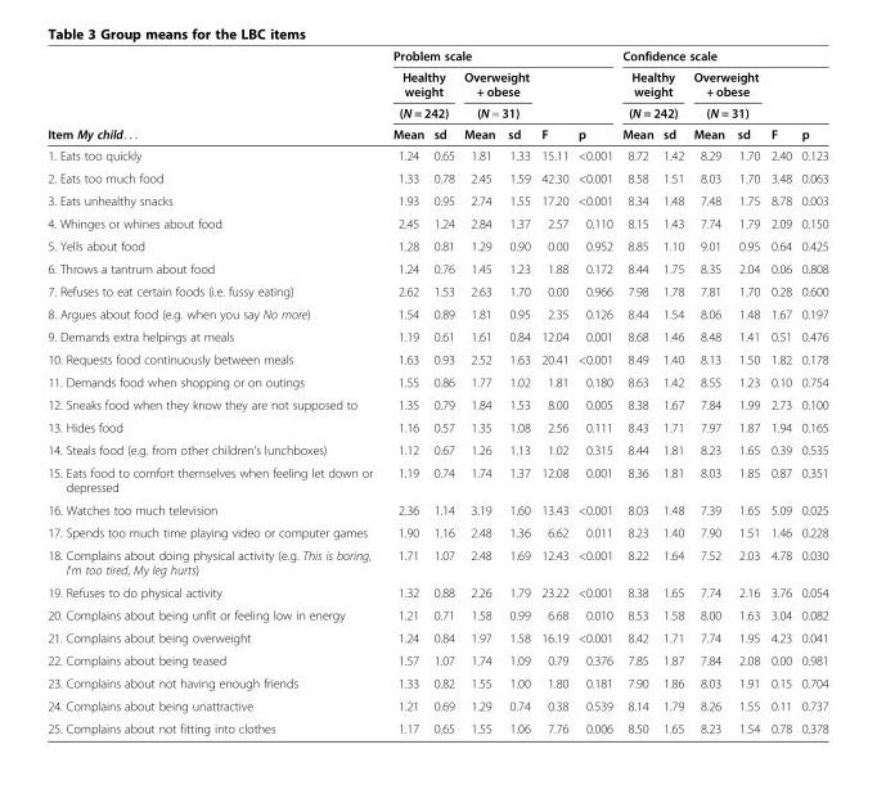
<table><thead><tr><td rowspan="4">Item My child. . .</td><td colspan="6">Problem scale</td><td colspan="6">Confidence scale</td></tr><tr><td rowspan="2" colspan="2">Healthy weight (N = 242)</td><td rowspan="2" colspan="2">Overweight + obese (N = 31)</td><td rowspan="3">F</td><td rowspan="3">p</td><td rowspan="2" colspan="2">Healthy weight (N = 242)</td><td rowspan="2" colspan="2">Overweight + obese (N = 31)</td><td rowspan="3">F</td><td rowspan="3">p</td></tr><tr></tr><tr><td>Mean</td><td>sd</td><td>Mean</td><td>sd</td><td>Mean</td><td>sd</td><td>Mean</td><td>sd</td></tr></thead><tbody><tr><td>1. Eats too quickly</td><td>1.24</td><td>0.65</td><td>1.81</td><td>1.33</td><td>15.11</td><td>&lt;0.001</td><td>8.72</td><td>1.42</td><td>8.29</td><td>1.70</td><td>2.40</td><td>0.123</td></tr><tr><td>2. Eats too much food</td><td>1.33</td><td>0.78</td><td>2.45</td><td>1.59</td><td>42.30</td><td>&lt;0.001</td><td>8.58</td><td>1.51</td><td>8.03</td><td>1.70</td><td>3.48</td><td>0.063</td></tr><tr><td>3. Eats unhealthy snacks</td><td>1.93</td><td>0.95</td><td>2.74</td><td>1.55</td><td>17.20</td><td>&lt;0.001</td><td>8.34</td><td>1.48</td><td>7.48</td><td>1.75</td><td>8.78</td><td>0.003</td></tr><tr><td>4. Whinges or whines about food</td><td>2.45</td><td>1.24</td><td>2.84</td><td>1.37</td><td>2.57</td><td>0.110</td><td>8.15</td><td>1.43</td><td>7.74</td><td>1.79</td><td>2.09</td><td>0.150</td></tr><tr><td>5. Yells about food</td><td>1.28</td><td>0.81</td><td>1.29</td><td>0.90</td><td>0.00</td><td>0.952</td><td>8.85</td><td>1.10</td><td>9.01</td><td>0.95</td><td>0.64</td><td>0.425</td></tr><tr><td>6. Throws a tantrum about food</td><td>1.24</td><td>0.76</td><td>1.45</td><td>1.23</td><td>1.88</td><td>0.172</td><td>8.44</td><td>1.75</td><td>8.35</td><td>2.04</td><td>0.06</td><td>0.808</td></tr><tr><td>7. Refuses to eat certain foods (i.e. fussy eating)</td><td>2.62</td><td>1.53</td><td>2.63</td><td>1.70</td><td>0.00</td><td>0.966</td><td>7.98</td><td>1.78</td><td>7.81</td><td>1.70</td><td>0.28</td><td>0.600</td></tr><tr><td>8. Argues about food (e.g. when you say No more)</td><td>1.54</td><td>0.89</td><td>1.81</td><td>0.95</td><td>2.35</td><td>0.126</td><td>8.44</td><td>1.54</td><td>8.06</td><td>1.48</td><td>1.67</td><td>0.197</td></tr><tr><td>9. Demands extra helpings at meals</td><td>1.19</td><td>0.61</td><td>1.61</td><td>0.84</td><td>12.04</td><td>0.001</td><td>8.68</td><td>1.46</td><td>8.48</td><td>1.41</td><td>0.51</td><td>0.476</td></tr><tr><td>10. Requests food continuously between meals</td><td>1.63</td><td>0.93</td><td>2.52</td><td>1.63</td><td>20.41</td><td>&lt;0.001</td><td>8.49</td><td>1.40</td><td>8.13</td><td>1.50</td><td>1.82</td><td>0.178</td></tr><tr><td>11. Demands food when shopping or on outings</td><td>1.55</td><td>0.86</td><td>1.77</td><td>1.02</td><td>1.81</td><td>0.180</td><td>8.63</td><td>1.42</td><td>8.55</td><td>1.23</td><td>0.10</td><td>0.754</td></tr><tr><td>12. Sneaks food when they know they are not supposed to</td><td>1.35</td><td>0.79</td><td>1.84</td><td>1.53</td><td>8.00</td><td>0.005</td><td>8.38</td><td>1.67</td><td>7.84</td><td>1.99</td><td>2.73</td><td>0.100</td></tr><tr><td>13. Hides food</td><td>1.16</td><td>0.57</td><td>1.35</td><td>1.08</td><td>2.56</td><td>0.111</td><td>8.43</td><td>1.71</td><td>7.97</td><td>1.87</td><td>1.94</td><td>0.165</td></tr><tr><td>14. Steals food (e.g. from other children’s lunchboxes)</td><td>1.12</td><td>0.67</td><td>1.26</td><td>1.13</td><td>1.02</td><td>0.315</td><td>8.44</td><td>1.81</td><td>8.23</td><td>1.65</td><td>0.39</td><td>0.535</td></tr><tr><td>15. Eats food to comfort themselves when feeling let down or depressed</td><td>1.19</td><td>0.74</td><td>1.74</td><td>1.37</td><td>12.08</td><td>0.001</td><td>8.36</td><td>1.81</td><td>8.03</td><td>1.85</td><td>0.87</td><td>0.351</td></tr><tr><td>16. Watches too much television</td><td>2.36</td><td>1.14</td><td>3.19</td><td>1.60</td><td>13.43</td><td>&lt;0.001</td><td>8.03</td><td>1.48</td><td>7.39</td><td>1.65</td><td>5.09</td><td>0.025</td></tr><tr><td>17. Spends too much time playing video or computer games</td><td>1.90</td><td>1.16</td><td>2.48</td><td>1.36</td><td>6.62</td><td>0.011</td><td>8.23</td><td>1.40</td><td>7.90</td><td>1.51</td><td>1.46</td><td>0.228</td></tr><tr><td>18. Complains about doing physical activity (e.g. This is boring, I’m too tired, My leg hurts)</td><td>1.71</td><td>1.07</td><td>2.48</td><td>1.69</td><td>12.43</td><td>&lt;0.001</td><td>8.22</td><td>1.64</td><td>7.52</td><td>2.03</td><td>4.78</td><td>0.030</td></tr><tr><td>19. Refuses to do physical activity</td><td>1.32</td><td>0.88</td><td>2.26</td><td>1.79</td><td>23.22</td><td>&lt;0.001</td><td>8.38</td><td>1.65</td><td>7.74</td><td>2.16</td><td>3.76</td><td>0.054</td></tr><tr><td>20. Complains about being unfit or feeling low in energy</td><td>1.21</td><td>0.71</td><td>1.58</td><td>0.99</td><td>6.68</td><td>0.010</td><td>8.53</td><td>1.58</td><td>8.00</td><td>1.63</td><td>3.04</td><td>0.082</td></tr><tr><td>21. Complains about being overweight</td><td>1.24</td><td>0.84</td><td>1.97</td><td>1.58</td><td>16.19</td><td>&lt;0.001</td><td>8.42</td><td>1.71</td><td>7.74</td><td>1.95</td><td>4.23</td><td>0.041</td></tr><tr><td>22. Complains about being teased</td><td>1.57</td><td>1.07</td><td>1.74</td><td>1.09</td><td>0.79</td><td>0.376</td><td>7.85</td><td>1.87</td><td>7.84</td><td>2.08</td><td>0.00</td><td>0.981</td></tr><tr><td>23. Complains about not having enough friends</td><td>1.33</td><td>0.82</td><td>1.55</td><td>1.00</td><td>1.80</td><td>0.181</td><td>7.90</td><td>1.86</td><td>8.03</td><td>1.91</td><td>0.15</td><td>0.704</td></tr><tr><td>24. Complains about being unattractive</td><td>1.21</td><td>0.69</td><td>1.29</td><td>0.74</td><td>0.38</td><td>0.539</td><td>8.14</td><td>1.79</td><td>8.26</td><td>1.55</td><td>0.11</td><td>0.737</td></tr><tr><td>25. Complains about not fitting into clothes</td><td>1.17</td><td>0.65</td><td>1.55</td><td>1.06</td><td>7.76</td><td>0.006</td><td>8.50</td><td>1.65</td><td>8.23</td><td>1.54</td><td>0.78</td><td>0.378</td></tr></tbody></table>